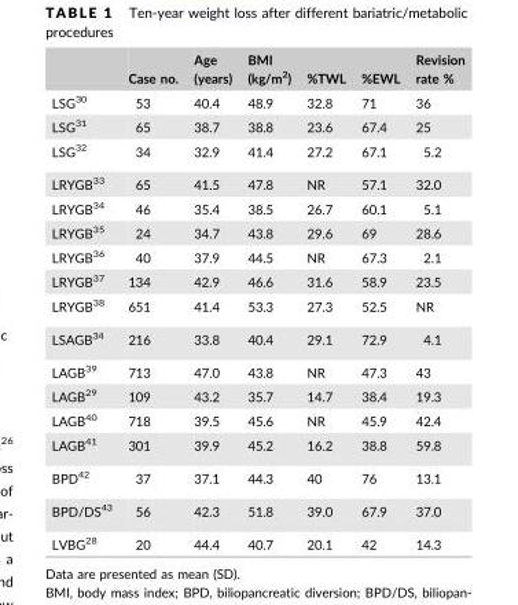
<table><thead><tr><td></td><td>Case no.</td><td>Age (years)</td><td>BMI (kg/m<sup>2</sup>)</td><td>%TWL</td><td>%EWL</td><td>Revision rate %</td></tr></thead><tbody><tr><td>LSG<sup>30</sup></td><td>53</td><td>40.4</td><td>48.9</td><td>32.8</td><td>71</td><td>36</td></tr><tr><td>LSG<sup>31</sup></td><td>65</td><td>38.7</td><td>38.8</td><td>23.6</td><td>67.4</td><td>25</td></tr><tr><td>LSG<sup>32</sup></td><td>34</td><td>32.9</td><td>41.4</td><td>27.2</td><td>67.1</td><td>5.2</td></tr><tr><td>LRYGB<sup>33</sup></td><td>65</td><td>41.5</td><td>47.8</td><td>NR</td><td>57.1</td><td>32.0</td></tr><tr><td>LRYGB<sup>34</sup></td><td>46</td><td>35.4</td><td>38.5</td><td>26.7</td><td>60.1</td><td>5.1</td></tr><tr><td>LRYGB<sup>35</sup></td><td>24</td><td>34.7</td><td>43.8</td><td>29.6</td><td>69</td><td>28.6</td></tr><tr><td>LRYGB<sup>36</sup></td><td>40</td><td>37.9</td><td>44.5</td><td>NR</td><td>67.3</td><td>2.1</td></tr><tr><td>LRYGB<sup>37</sup></td><td>134</td><td>42.9</td><td>46.6</td><td>31.6</td><td>58.9</td><td>23.5</td></tr><tr><td>LRYGB<sup>38</sup></td><td>651</td><td>41.4</td><td>53.3</td><td>27.3</td><td>52.5</td><td>NR</td></tr><tr><td>LSAGB<sup>34</sup></td><td>216</td><td>33.8</td><td>40.4</td><td>29.1</td><td>72.9</td><td>4.1</td></tr><tr><td>LAGB<sup>39</sup></td><td>713</td><td>47.0</td><td>43.8</td><td>NR</td><td>47.3</td><td>43</td></tr><tr><td>LAGB<sup>29</sup></td><td>109</td><td>43.2</td><td>35.7</td><td>14.7</td><td>38.4</td><td>19.3</td></tr><tr><td>LAGB<sup>40</sup></td><td>718</td><td>39.5</td><td>45.6</td><td>NR</td><td>45.9</td><td>42.4</td></tr><tr><td>LAGB<sup>41</sup></td><td>301</td><td>39.9</td><td>45.2</td><td>16.2</td><td>38.8</td><td>59.8</td></tr><tr><td>BPD<sup>42</sup></td><td>37</td><td>37.1</td><td>44.3</td><td>40</td><td>76</td><td>13.1</td></tr><tr><td>BPD/DS<sup>43</sup></td><td>56</td><td>42.3</td><td>51.8</td><td>39.0</td><td>67.9</td><td>37.0</td></tr><tr><td>LVBG<sup>28</sup></td><td>20</td><td>44.4</td><td>40.7</td><td>20.1</td><td>42</td><td>14.3</td></tr></tbody></table>